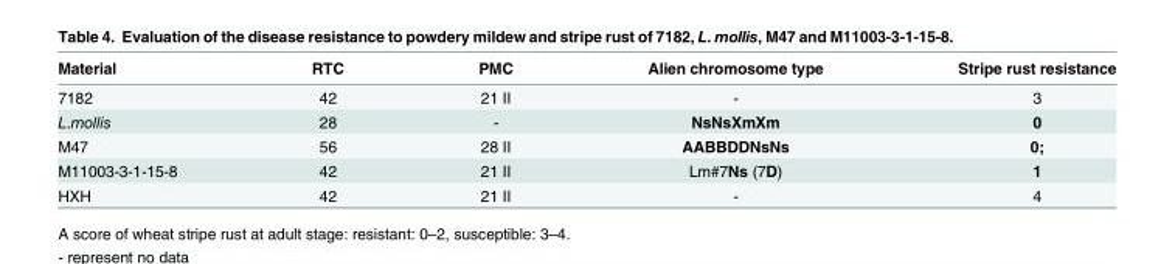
<table><thead><tr><td>Material</td><td>RTC</td><td>PMC</td><td>Alien chromosome type</td><td>Stripe rust resistance</td></tr></thead><tbody><tr><td>7182</td><td>42</td><td>21 II</td><td>-</td><td>3</td></tr><tr><td>L.mollis</td><td>28</td><td>-</td><td>NsNsXmXm</td><td>0</td></tr><tr><td>M47</td><td>56</td><td>28 II</td><td>AABBDDNsNs</td><td>0;</td></tr><tr><td>M11003-3-1-15-8</td><td>42</td><td>21 II</td><td>Lm#7Ns (7D)</td><td>1</td></tr><tr><td>HXH</td><td>42</td><td>21 II</td><td>-</td><td>4</td></tr></tbody></table>